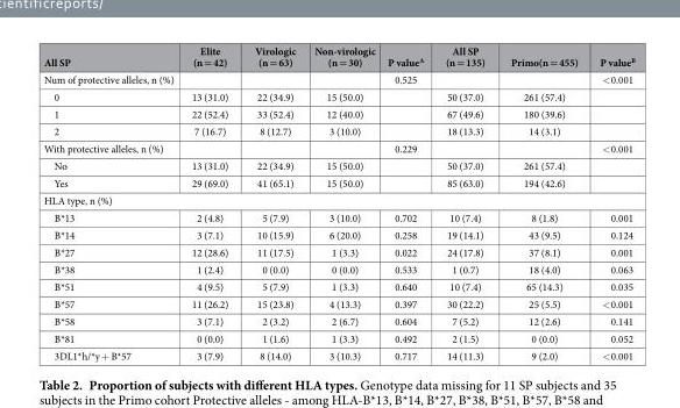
<table><thead><tr><td>All SP</td><td>Elite (n = 42)</td><td>Virologic (n = 63)</td><td>Non-virologic (n = 30)</td><td>P value<sup>A</sup></td><td>All SP (n = 135)</td><td>Primo(n = 455)</td><td>P value<sup>B</sup></td></tr></thead><tbody><tr><td>Num of protective alleles, n (%)</td><td></td><td></td><td></td><td>0.525</td><td></td><td></td><td>&lt; 0.001</td></tr><tr><td>0</td><td>13 (31.0)</td><td>22 (34.9)</td><td>15 (50.0)</td><td></td><td>50 (37.0)</td><td>261 (57.4)</td><td></td></tr><tr><td>1</td><td>22 (52.4)</td><td>33 (52.4)</td><td>12 (40.0)</td><td></td><td>67 (49.6)</td><td>180 (39.6)</td><td></td></tr><tr><td>2</td><td>7 (16.7)</td><td>8 (12.7)</td><td>3 (10.0)</td><td></td><td>18 (13.3)</td><td>14 (3.1)</td><td></td></tr><tr><td>With protective alleles, n (%)</td><td></td><td></td><td></td><td>0.229</td><td></td><td></td><td>&lt; 0.001</td></tr><tr><td>No</td><td>13 (31.0)</td><td>22 (34.9)</td><td>15 (50.0)</td><td></td><td>50 (37.0)</td><td>261 (57.4)</td><td></td></tr><tr><td>Yes</td><td>29 (69.0)</td><td>41 (65.1)</td><td>15 (50.0)</td><td></td><td>85 (63.0)</td><td>194 (42.6)</td><td></td></tr><tr><td colspan="8">HLA type, n (%)</td></tr><tr><td>B*13</td><td>2 (4.8)</td><td>5 (7.9)</td><td>3 (10.0)</td><td>0.702</td><td>10 (7.4)</td><td>8 (1.8)</td><td>0.001</td></tr><tr><td>B*14</td><td>3 (7.1)</td><td>10 (15.9)</td><td>6 (20.0)</td><td>0.258</td><td>19 (14.1)</td><td>43 (9.5)</td><td>0.124</td></tr><tr><td>B*27</td><td>12 (28.6)</td><td>11 (17.5)</td><td>1 (3.3)</td><td>0.022</td><td>24 (17.8)</td><td>37 (8.1)</td><td>0.001</td></tr><tr><td>B*38</td><td>1 (2.4)</td><td>0 (0.0)</td><td>0 (0.0)</td><td>0.533</td><td>1 (0.7)</td><td>18 (4.0)</td><td>0.063</td></tr><tr><td>B*51</td><td>4 (9.5)</td><td>5 (7.9)</td><td>1 (3.3)</td><td>0.640</td><td>10 (7.4)</td><td>65 (14.3)</td><td>0.035</td></tr><tr><td>B*57</td><td>11 (26.2)</td><td>15 (23.8)</td><td>4 (13.3)</td><td>0.397</td><td>30 (22.2)</td><td>25 (5.5)</td><td>&lt; 0.001</td></tr><tr><td>B*58</td><td>3 (7.1)</td><td>2 (3.2)</td><td>2 (6.7)</td><td>0.604</td><td>7 (5.2)</td><td>12 (2.6)</td><td>0.141</td></tr><tr><td>B*81</td><td>0 (0.0)</td><td>1 (1.6)</td><td>1 (3.3)</td><td>0.492</td><td>2 (1.5)</td><td>0 (0.0)</td><td>0.052</td></tr><tr><td>3DL1*h/*y + B*57</td><td>3 (7.9)</td><td>8 (14.0)</td><td>3 (10.3)</td><td>0.717</td><td>14 (11.3)</td><td>9 (2.0)</td><td>&lt; 0.001</td></tr></tbody></table>